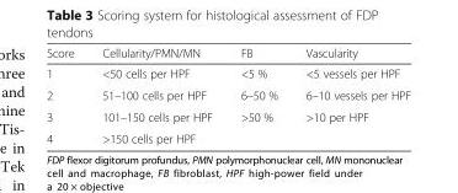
<table><thead><tr><td>Score</td><td>Cellularity/PMN/MN</td><td>FB</td><td>Vascularity</td></tr></thead><tbody><tr><td>1</td><td>&lt;50 cells per HPF</td><td>&lt;5 %</td><td>&lt;5 vessels per HPF</td></tr><tr><td>2</td><td>51–100 cells per HPF</td><td>6–50 %</td><td>6–10 vessels per HPF</td></tr><tr><td>3</td><td>101–150 cells per HPF</td><td>&gt;50 %</td><td>&gt;10 per HPF</td></tr><tr><td>4</td><td>&gt;150 cells per HPF</td><td></td><td></td></tr></tbody></table>